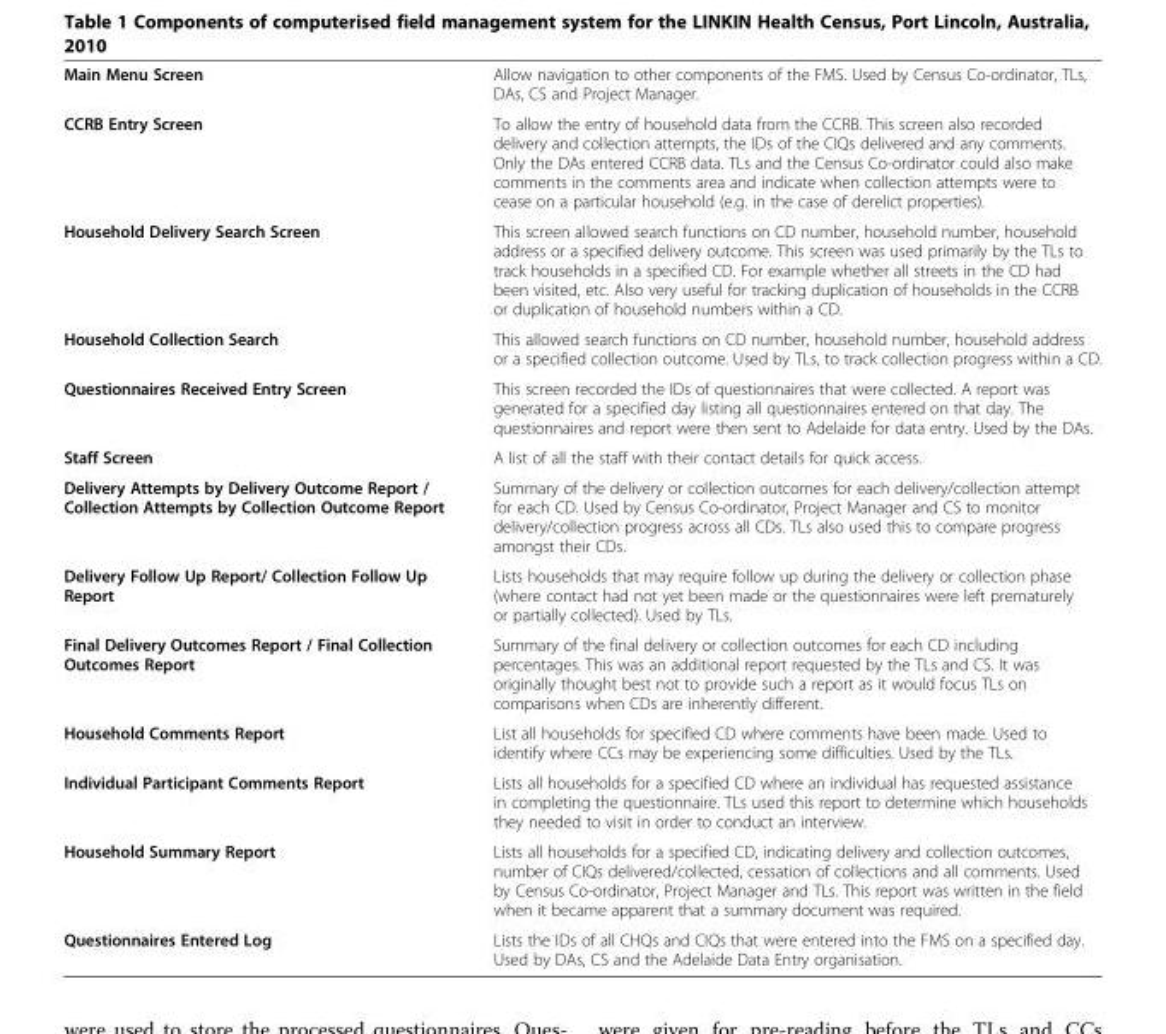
<table><tbody><tr><td>Main Menu Screen</td><td>Allow navigation to other components of the FMS. Used by Census Co-ordinator, TLs, DAs, CS and Project Manager.</td></tr><tr><td>CCRB Entry Screen</td><td>To allow the entry of household data from the CCRB. This screen also recorded delivery and collection attempts, the IDs of the CIQs delivered and any comments. Only the DAs entered CCRB data. TLs and the Census Co-ordinator could also make comments in the comments area and indicate when collection attempts were to cease on a particular household (e.g. in the case of derelict properties).</td></tr><tr><td>Household Delivery Search Screen</td><td>This screen allowed search functions on CD number, household number, household address or a specified delivery outcome. This screen was used primarily by the TLs to track households in a specified CD. For example whether all streets in the CD had been visited, etc. Also very useful for tracking duplication of households in the CCRB or duplication of household numbers within a CD.</td></tr><tr><td>Household Collection Search</td><td>This allowed search functions on CD number, household number, household address or a specified collection outcome. Used by TLs, to track collection progress within a CD.</td></tr><tr><td>Questionnaires Received Entry Screen</td><td>This screen recorded the IDs of questionnaires that were collected. A report was generated for a specified day listing all questionnaires entered on that day. The questionnaires and report were then sent to Adelaide for data entry. Used by the DAs.</td></tr><tr><td>Staff Screen</td><td>A list of all the staff with their contact details for quick access.</td></tr><tr><td>Delivery Attempts by Delivery Outcome Report / Collection Attempts by Collection Outcome Report</td><td>Summary of the delivery or collection outcomes for each delivery/collection attempt for each CD. Used by Census Co-ordinator, Project Manager and CS to monitor delivery/collection progress across all CDs. TLs also used this to compare progress amongst their CDs.</td></tr><tr><td>Delivery Follow Up Report/ Collection Follow Up Report</td><td>Lists households that may require follow up during the delivery or collection phase (where contact had not yet been made or the questionnaires were left prematurely or partially collected). Used by TLs.</td></tr><tr><td>Final Delivery Outcomes Report / Final Collection Outcomes Report</td><td>Summary of the final delivery or collection outcomes for each CD including percentages. This was an additional report requested by the TLs and CS. It was originally thought best not to provide such a report as it would focus TLs on comparisons when CDs are inherently different.</td></tr><tr><td>Household Comments Report</td><td>List all households for specified CD where comments have been made. Used to identify where CCs may be experiencing some difficulties. Used by the TLs.</td></tr><tr><td>Individual Participant Comments Report</td><td>Lists all households for a specified CD where an individual has requested assistance in completing the questionnaire. TLs used this report to determine which households they needed to visit in order to conduct an interview.</td></tr><tr><td>Household Summary Report</td><td>Lists all households for a specified CD, indicating delivery and collection outcomes, number of CIQs delivered/collected, cessation of collections and all comments. Used by Census Co-ordinator, Project Manager and TLs. This report was written in the field when it became apparent that a summary document was required.</td></tr><tr><td>Questionnaires Entered Log</td><td>Lists the IDs of all CHQs and CIQs that were entered into the FMS on a specified day. Used by DAs, CS and the Adelaide Data Entry organisation.</td></tr></tbody></table>